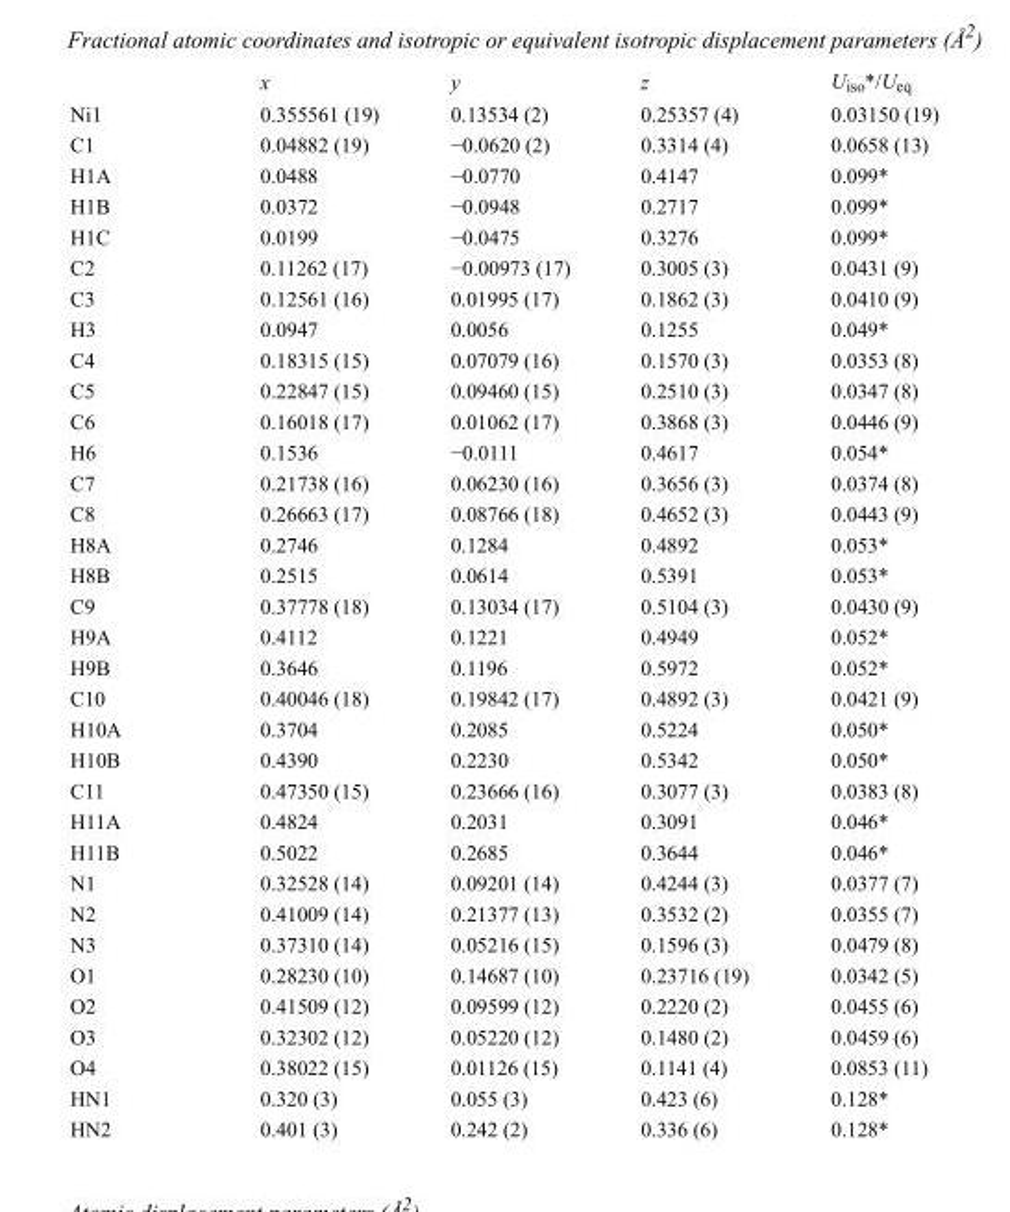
<table><thead><tr><td></td><td>x</td><td>y</td><td>z</td><td>U<sub>iso</sub>*/U<sub>eq</sub></td></tr></thead><tbody><tr><td>Ni1</td><td>0.355561 (19)</td><td>0.13534 (2)</td><td>0.25357 (4)</td><td>0.03150 (19)</td></tr><tr><td>C1</td><td>0.04882 (19)</td><td>−0.0620 (2)</td><td>0.3314 (4)</td><td>0.0658 (13)</td></tr><tr><td>H1A</td><td>0.0488</td><td>−0.0770</td><td>0.4147</td><td>0.099*</td></tr><tr><td>H1B</td><td>0.0372</td><td>−0.0948</td><td>0.2717</td><td>0.099*</td></tr><tr><td>H1C</td><td>0.0199</td><td>−0.0475</td><td>0.3276</td><td>0.099*</td></tr><tr><td>C2</td><td>0.11262 (17)</td><td>−0.00973 (17)</td><td>0.3005 (3)</td><td>0.0431 (9)</td></tr><tr><td>C3</td><td>0.12561 (16)</td><td>0.01995 (17)</td><td>0.1862 (3)</td><td>0.0410 (9)</td></tr><tr><td>H3</td><td>0.0947</td><td>0.0056</td><td>0.1255</td><td>0.049*</td></tr><tr><td>C4</td><td>0.18315 (15)</td><td>0.07079 (16)</td><td>0.1570 (3)</td><td>0.0353 (8)</td></tr><tr><td>C5</td><td>0.22847 (15)</td><td>0.09460 (15)</td><td>0.2510 (3)</td><td>0.0347 (8)</td></tr><tr><td>C6</td><td>0.16018 (17)</td><td>0.01062 (17)</td><td>0.3868 (3)</td><td>0.0446 (9)</td></tr><tr><td>H6</td><td>0.1536</td><td>−0.0111</td><td>0.4617</td><td>0.054*</td></tr><tr><td>C7</td><td>0.21738 (16)</td><td>0.06230 (16)</td><td>0.3656 (3)</td><td>0.0374 (8)</td></tr><tr><td>C8</td><td>0.26663 (17)</td><td>0.08766 (18)</td><td>0.4652 (3)</td><td>0.0443 (9)</td></tr><tr><td>H8A</td><td>0.2746</td><td>0.1284</td><td>0.4892</td><td>0.053*</td></tr><tr><td>H8B</td><td>0.2515</td><td>0.0614</td><td>0.5391</td><td>0.053*</td></tr><tr><td>C9</td><td>0.37778 (18)</td><td>0.13034 (17)</td><td>0.5104 (3)</td><td>0.0430 (9)</td></tr><tr><td>H9A</td><td>0.4112</td><td>0.1221</td><td>0.4949</td><td>0.052*</td></tr><tr><td>H9B</td><td>0.3646</td><td>0.1196</td><td>0.5972</td><td>0.052*</td></tr><tr><td>C10</td><td>0.40046 (18)</td><td>0.19842 (17)</td><td>0.4892 (3)</td><td>0.0421 (9)</td></tr><tr><td>H10A</td><td>0.3704</td><td>0.2085</td><td>0.5224</td><td>0.050*</td></tr><tr><td>H10B</td><td>0.4390</td><td>0.2230</td><td>0.5342</td><td>0.050*</td></tr><tr><td>C11</td><td>0.47350 (15)</td><td>0.23666 (16)</td><td>0.3077 (3)</td><td>0.0383 (8)</td></tr><tr><td>H11A</td><td>0.4824</td><td>0.2031</td><td>0.3091</td><td>0.046*</td></tr><tr><td>H11B</td><td>0.5022</td><td>0.2685</td><td>0.3644</td><td>0.046*</td></tr><tr><td>N1</td><td>0.32528 (14)</td><td>0.09201 (14)</td><td>0.4244 (3)</td><td>0.0377 (7)</td></tr><tr><td>N2</td><td>0.41009 (14)</td><td>0.21377 (13)</td><td>0.3532 (2)</td><td>0.0355 (7)</td></tr><tr><td>N3</td><td>0.37310 (14)</td><td>0.05216 (15)</td><td>0.1596 (3)</td><td>0.0479 (8)</td></tr><tr><td>O1</td><td>0.28230 (10)</td><td>0.14687 (10)</td><td>0.23716 (19)</td><td>0.0342 (5)</td></tr><tr><td>O2</td><td>0.41509 (12)</td><td>0.09599 (12)</td><td>0.2220 (2)</td><td>0.0455 (6)</td></tr><tr><td>O3</td><td>0.32302 (12)</td><td>0.05220 (12)</td><td>0.1480 (2)</td><td>0.0459 (6)</td></tr><tr><td>O4</td><td>0.38022 (15)</td><td>0.01126 (15)</td><td>0.1141 (4)</td><td>0.0853 (11)</td></tr><tr><td>HN1</td><td>0.320 (3)</td><td>0.055 (3)</td><td>0.423 (6)</td><td>0.128*</td></tr><tr><td>HN2</td><td>0.401 (3)</td><td>0.242 (2)</td><td>0.336 (6)</td><td>0.128*</td></tr></tbody></table>